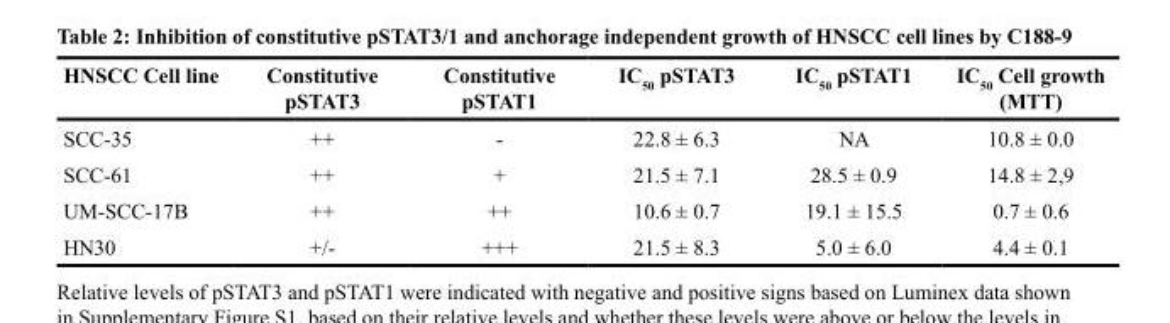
<table><thead><tr><td>HNSCC Cell line</td><td>Constitutive pSTAT3</td><td>Constitutive pSTAT1</td><td>IC<sub>50</sub> pSTAT3</td><td>IC<sub>50</sub> pSTAT1</td><td>IC<sub>50</sub> Cell growth (MTT)</td></tr></thead><tbody><tr><td>SCC-35</td><td>++</td><td>-</td><td>22.8 ± 6.3</td><td>NA</td><td>10.8 ± 0.0</td></tr><tr><td>SCC-61</td><td>++</td><td>+</td><td>21.5 ± 7.1</td><td>28.5 ± 0.9</td><td>14.8 ± 2,9</td></tr><tr><td>UM-SCC-17B</td><td>++</td><td>++</td><td>10.6 ± 0.7</td><td>19.1 ± 15.5</td><td>0.7 ± 0.6</td></tr><tr><td>HN30</td><td>+/-</td><td>+++</td><td>21.5 ± 8.3</td><td>5.0 ± 6.0</td><td>4.4 ± 0.1</td></tr></tbody></table>